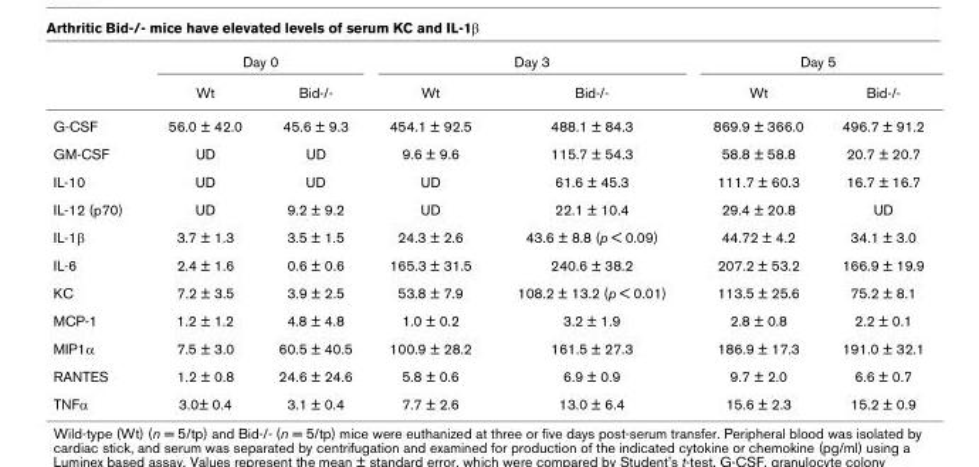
<table><thead><tr><td rowspan="2"></td><td colspan="2">Day 0</td><td colspan="2">Day 3</td><td colspan="2">Day 5</td></tr><tr><td>Wt</td><td>Bid-/-</td><td>Wt</td><td>Bid-/-</td><td>Wt</td><td>Bid-/-</td></tr></thead><tbody><tr><td>G-CSF</td><td>56.0 ± 42.0</td><td>45.6 ± 9.3</td><td>454.1 ± 92.5</td><td>488.1 ± 84.3</td><td>869.9 ± 366.0</td><td>496.7 ± 91.2</td></tr><tr><td>GM-CSF</td><td>UD</td><td>UD</td><td>9.6 ± 9.6</td><td>115.7 ± 54.3</td><td>58.8 ± 58.8</td><td>20.7 ± 20.7</td></tr><tr><td>IL-10</td><td>UD</td><td>UD</td><td>UD</td><td>61.6 ± 45.3</td><td>111.7 ± 60.3</td><td>16.7 ± 16.7</td></tr><tr><td>IL-12 (p70)</td><td>UD</td><td>9.2 ± 9.2</td><td>UD</td><td>22.1 ± 10.4</td><td>29.4 ± 20.8</td><td>UD</td></tr><tr><td>IL-1β</td><td>3.7 ± 1.3</td><td>3.5 ± 1.5</td><td>24.3 ± 2.6</td><td>43.6 ± 8.8 (p &lt; 0.09)</td><td>44.72 ± 4.2</td><td>34.1 ± 3.0</td></tr><tr><td>IL-6</td><td>2.4 ± 1.6</td><td>0.6 ± 0.6</td><td>165.3 ± 31.5</td><td>240.6 ± 38.2</td><td>207.2 ± 53.2</td><td>166.9 ± 19.9</td></tr><tr><td>KC</td><td>7.2 ± 3.5</td><td>3.9 ± 2.5</td><td>53.8 ± 7.9</td><td>108.2 ± 13.2 (p &lt; 0.01)</td><td>113.5 ± 25.6</td><td>75.2 ± 8.1</td></tr><tr><td>MCP-1</td><td>1.2 ± 1.2</td><td>4.8 ± 4.8</td><td>1.0 ± 0.2</td><td>3.2 ± 1.9</td><td>2.8 ± 0.8</td><td>2.2 ± 0.1</td></tr><tr><td>MIP1α</td><td>7.5 ± 3.0</td><td>60.5 ± 40.5</td><td>100.9 ± 28.2</td><td>161.5 ± 27.3</td><td>186.9 ± 17.3</td><td>191.0 ± 32.1</td></tr><tr><td>RANTES</td><td>1.2 ± 0.8</td><td>24.6 ± 24.6</td><td>5.8 ± 0.6</td><td>6.9 ± 0.9</td><td>9.7 ± 2.0</td><td>6.6 ± 0.7</td></tr><tr><td>TNFα</td><td>3.0± 0.4</td><td>3.1 ± 0.4</td><td>7.7 ± 2.6</td><td>13.0 ± 6.4</td><td>15.6 ± 2.3</td><td>15.2 ± 0.9</td></tr></tbody></table>